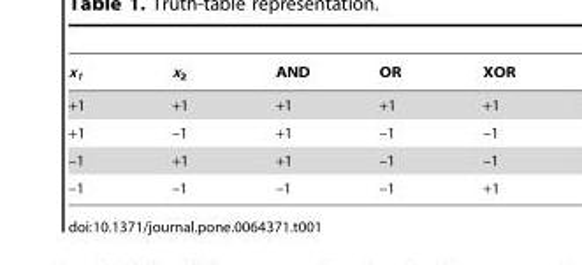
<table><thead><tr><td>x<sub>1</sub></td><td>x<sub>2</sub></td><td>AND</td><td>OR</td><td>XOR</td></tr></thead><tbody><tr><td>+1</td><td>+1</td><td>+1</td><td>+1</td><td>+1</td></tr><tr><td>+1</td><td>–1</td><td>+1</td><td>–1</td><td>–1</td></tr><tr><td>–1</td><td>+1</td><td>+1</td><td>–1</td><td>–1</td></tr><tr><td>–1</td><td>–1</td><td>–1</td><td>–1</td><td>+1</td></tr></tbody></table>